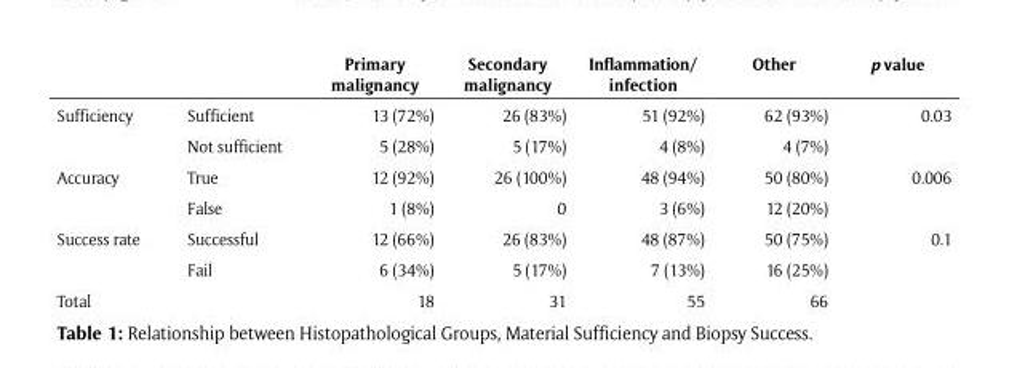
<table><thead><tr><td></td><td></td><td>Primary malignancy</td><td>Secondary malignancy</td><td>Inflammation/ infection</td><td>Other</td><td>p value</td></tr></thead><tbody><tr><td rowspan="2">Sufficiency</td><td>Sufficient</td><td>13 (72%)</td><td>26 (83%)</td><td>51 (92%)</td><td>62 (93%)</td><td>0.03</td></tr><tr><td>Not sufficient</td><td>5 (28%)</td><td>5 (17%)</td><td>4 (8%)</td><td>4 (7%)</td><td></td></tr><tr><td rowspan="2">Accuracy</td><td>True</td><td>12 (92%)</td><td>26 (100%)</td><td>48 (94%)</td><td>50 (80%)</td><td>0.006</td></tr><tr><td>False</td><td>1 (8%)</td><td>0</td><td>3 (6%)</td><td>12 (20%)</td><td></td></tr><tr><td rowspan="2">Success rate</td><td>Successful</td><td>12 (66%)</td><td>26 (83%)</td><td>48 (87%)</td><td>50 (75%)</td><td>0.1</td></tr><tr><td>Fail</td><td>6 (34%)</td><td>5 (17%)</td><td>7 (13%)</td><td>16 (25%)</td><td></td></tr><tr><td>Total</td><td></td><td>18</td><td>31</td><td>55</td><td>66</td><td></td></tr></tbody></table>